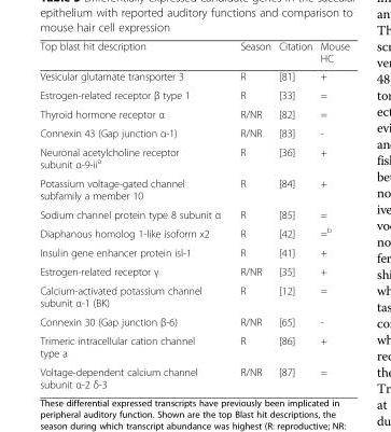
<table><thead><tr><td>Top blast hit description</td><td>Season</td><td>Citation</td><td>Mouse HC</td></tr></thead><tbody><tr><td>Vesicular glutamate transporter 3</td><td>R</td><td>[81]</td><td>+</td></tr><tr><td>Estrogen-related receptor β type 1</td><td>R</td><td>[33]</td><td>=</td></tr><tr><td>Thyroid hormone receptor α</td><td>R/NR</td><td>[82]</td><td>=</td></tr><tr><td>Connexin 43 (Gap junction α-1)</td><td>R/NR</td><td>[83]</td><td>-</td></tr><tr><td>Neuronal acetylcholine receptor subunit α-9-ii<sup>a</sup></td><td>R</td><td>[36]</td><td>+</td></tr><tr><td>Potassium voltage-gated channel subfamily a member 10</td><td>R</td><td>[84]</td><td>+</td></tr><tr><td>Sodium channel protein type 8 subunit α</td><td>R</td><td>[85]</td><td>=</td></tr><tr><td>Diaphanous homolog 1-like isoform x2</td><td>R</td><td>[42]</td><td>=<sup>b</sup></td></tr><tr><td>Insulin gene enhancer protein isl-1</td><td>R</td><td>[41]</td><td>+</td></tr><tr><td>Estrogen-related receptor γ</td><td>R/NR</td><td>[35]</td><td>+</td></tr><tr><td>Calcium-activated potassium channel subunit α-1 (BK)</td><td>R</td><td>[12]</td><td>=</td></tr><tr><td>Connexin 30 (Gap junction β-6)</td><td>R/NR</td><td>[65]</td><td>-</td></tr><tr><td>Trimeric intracellular cation channel type a</td><td>R</td><td>[86]</td><td>+</td></tr><tr><td>Voltage-dependent calcium channel subunit α-2 δ-3</td><td>R/NR</td><td>[87]</td><td>=</td></tr></tbody></table>